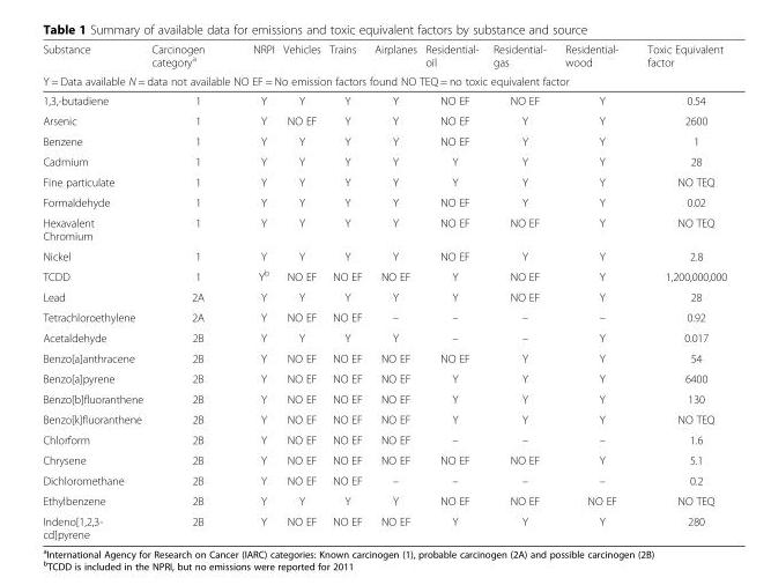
<table><thead><tr><td>Substance</td><td>Carcinogen category<sup>a</sup></td><td>NRPI</td><td>Vehicles</td><td>Trains</td><td>Airplanes</td><td>Residential- oil</td><td>Residential- gas</td><td>Residential- wood</td><td>Toxic Equivalent factor</td></tr><tr><td colspan="10">Y = Data available N = data not available NO EF = No emission factors found NO TEQ = no toxic equivalent factor</td></tr></thead><tbody><tr><td>1,3,-butadiene</td><td>1</td><td>Y</td><td>Y</td><td>Y</td><td>Y</td><td>NO EF</td><td>NO EF</td><td>Y</td><td>0.54</td></tr><tr><td>Arsenic</td><td>1</td><td>Y</td><td>NO EF</td><td>Y</td><td>Y</td><td>NO EF</td><td>Y</td><td>Y</td><td>2600</td></tr><tr><td>Benzene</td><td>1</td><td>Y</td><td>Y</td><td>Y</td><td>Y</td><td>NO EF</td><td>Y</td><td>Y</td><td>1</td></tr><tr><td>Cadmium</td><td>1</td><td>Y</td><td>Y</td><td>Y</td><td>Y</td><td>Y</td><td>Y</td><td>Y</td><td>28</td></tr><tr><td>Fine particulate</td><td>1</td><td>Y</td><td>Y</td><td>Y</td><td>Y</td><td>Y</td><td>Y</td><td>Y</td><td>NO TEQ</td></tr><tr><td>Formaldehyde</td><td>1</td><td>Y</td><td>Y</td><td>Y</td><td>Y</td><td>NO EF</td><td>Y</td><td>Y</td><td>0.02</td></tr><tr><td>Hexavalent Chromium</td><td>1</td><td>Y</td><td>Y</td><td>Y</td><td>Y</td><td>NO EF</td><td>NO EF</td><td>Y</td><td>NO TEQ</td></tr><tr><td>Nickel</td><td>1</td><td>Y</td><td>Y</td><td>Y</td><td>Y</td><td>NO EF</td><td>Y</td><td>Y</td><td>2.8</td></tr><tr><td>TCDD</td><td>1</td><td>Y<sup>b</sup></td><td>NO EF</td><td>NO EF</td><td>NO EF</td><td>Y</td><td>NO EF</td><td>Y</td><td>1,200,000,000</td></tr><tr><td>Lead</td><td>2A</td><td>Y</td><td>Y</td><td>Y</td><td>Y</td><td>Y</td><td>NO EF</td><td>Y</td><td>28</td></tr><tr><td>Tetrachloroethylene</td><td>2A</td><td>Y</td><td>NO EF</td><td>NO EF</td><td>–</td><td>–</td><td>–</td><td>–</td><td>0.92</td></tr><tr><td>Acetaldehyde</td><td>2B</td><td>Y</td><td>Y</td><td>Y</td><td>Y</td><td>–</td><td>–</td><td>Y</td><td>0.017</td></tr><tr><td>Benzo[a]anthracene</td><td>2B</td><td>Y</td><td>NO EF</td><td>NO EF</td><td>NO EF</td><td>NO EF</td><td>Y</td><td>Y</td><td>54</td></tr><tr><td>Benzo[a]pyrene</td><td>2B</td><td>Y</td><td>NO EF</td><td>NO EF</td><td>NO EF</td><td>Y</td><td>Y</td><td>Y</td><td>6400</td></tr><tr><td>Benzo[b]fluoranthene</td><td>2B</td><td>Y</td><td>NO EF</td><td>NO EF</td><td>NO EF</td><td>Y</td><td>Y</td><td>Y</td><td>130</td></tr><tr><td>Benzo[k]fluoranthene</td><td>2B</td><td>Y</td><td>NO EF</td><td>NO EF</td><td>NO EF</td><td>Y</td><td>Y</td><td>Y</td><td>NO TEQ</td></tr><tr><td>Chlorform</td><td>2B</td><td>Y</td><td>NO EF</td><td>NO EF</td><td>NO EF</td><td>–</td><td>–</td><td>–</td><td>1.6</td></tr><tr><td>Chrysene</td><td>2B</td><td>Y</td><td>NO EF</td><td>NO EF</td><td>NO EF</td><td>NO EF</td><td>NO EF</td><td>Y</td><td>5.1</td></tr><tr><td>Dichloromethane</td><td>2B</td><td>Y</td><td>NO EF</td><td>NO EF</td><td>–</td><td>–</td><td>–</td><td>–</td><td>0.2</td></tr><tr><td>Ethylbenzene</td><td>2B</td><td>Y</td><td>Y</td><td>Y</td><td>Y</td><td>NO EF</td><td>NO EF</td><td>NO EF</td><td>NO TEQ</td></tr><tr><td>Indeno[1,2,3- cd]pyrene</td><td>2B</td><td>Y</td><td>NO EF</td><td>NO EF</td><td>NO EF</td><td>Y</td><td>Y</td><td>Y</td><td>280</td></tr></tbody></table>